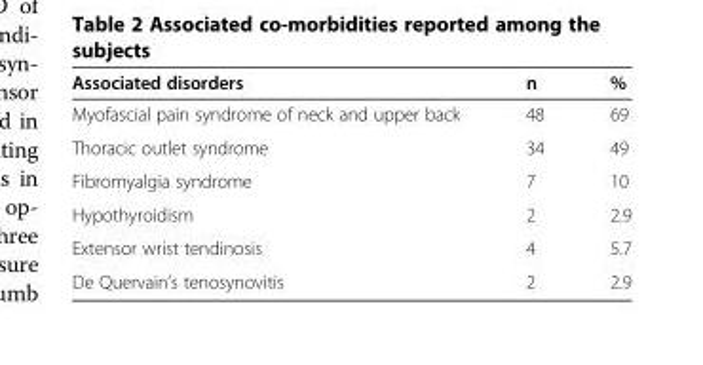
<table><thead><tr><td>Associated disorders</td><td>n</td><td>%</td></tr></thead><tbody><tr><td>Myofascial pain syndrome of neck and upper back</td><td>48</td><td>69</td></tr><tr><td>Thoracic outlet syndrome</td><td>34</td><td>49</td></tr><tr><td>Fibromyalgia syndrome</td><td>7</td><td>10</td></tr><tr><td>Hypothyroidism</td><td>2</td><td>2.9</td></tr><tr><td>Extensor wrist tendinosis</td><td>4</td><td>5.7</td></tr><tr><td>De Quervain’s tenosynovitis</td><td>2</td><td>2.9</td></tr></tbody></table>